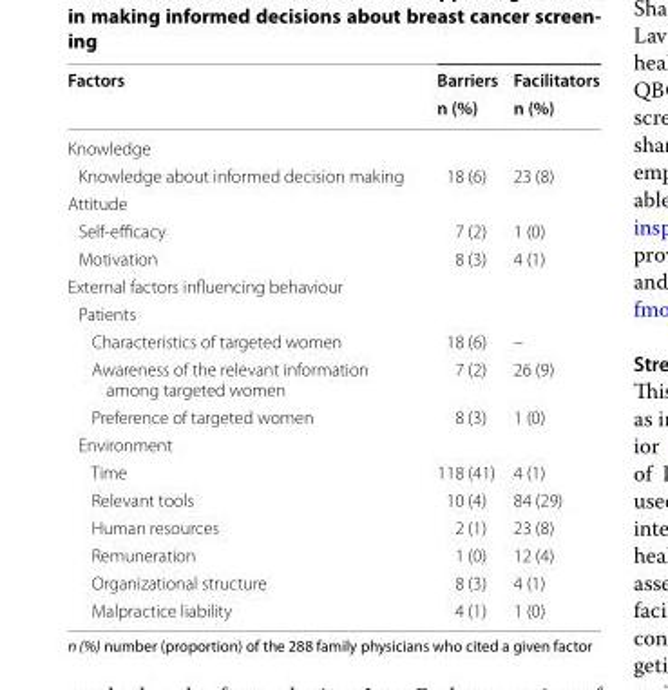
<table><thead><tr><td rowspan="2">Factors</td><td rowspan="2">Barriers n (%)</td><td rowspan="2">Facilitators n (%)</td></tr><tr></tr></thead><tbody><tr><td colspan="3">Knowledge</td></tr><tr><td>Knowledge about informed decision making</td><td>18 (6)</td><td>23 (8)</td></tr><tr><td colspan="3">Attitude</td></tr><tr><td>Self‑efficacy</td><td>7 (2)</td><td>1 (0)</td></tr><tr><td>Motivation</td><td>8 (3)</td><td>4 (1)</td></tr><tr><td colspan="3">External factors influencing behaviour</td></tr><tr><td colspan="3">Patients</td></tr><tr><td>Characteristics of targeted women</td><td>18 (6)</td><td>–</td></tr><tr><td>Awareness of the relevant information among targeted women</td><td>7 (2)</td><td>26 (9)</td></tr><tr><td>Preference of targeted women</td><td>8 (3)</td><td>1 (0)</td></tr><tr><td colspan="3">Environment</td></tr><tr><td>Time</td><td>118 (41)</td><td>4 (1)</td></tr><tr><td>Relevant tools</td><td>10 (4)</td><td>84 (29)</td></tr><tr><td>Human resources</td><td>2 (1)</td><td>23 (8)</td></tr><tr><td>Remuneration</td><td>1 (0)</td><td>12 (4)</td></tr><tr><td>Organizational structure</td><td>8 (3)</td><td>4 (1)</td></tr><tr><td>Malpractice liability</td><td>4 (1)</td><td>1 (0)</td></tr></tbody></table>